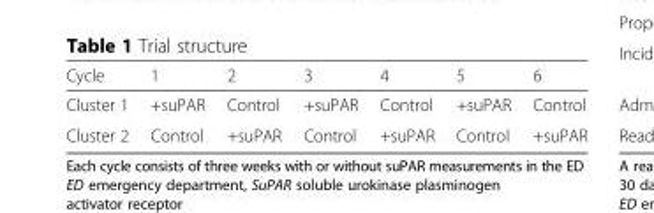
<table><thead><tr><td>Cycle</td><td>1</td><td>2</td><td>3</td><td>4</td><td>5</td><td>6</td></tr></thead><tbody><tr><td>Cluster 1</td><td>+suPAR</td><td>Control</td><td>+suPAR</td><td>Control</td><td>+suPAR</td><td>Control</td></tr><tr><td>Cluster 2</td><td>Control</td><td>+suPAR</td><td>Control</td><td>+suPAR</td><td>Control</td><td>+suPAR</td></tr></tbody></table>